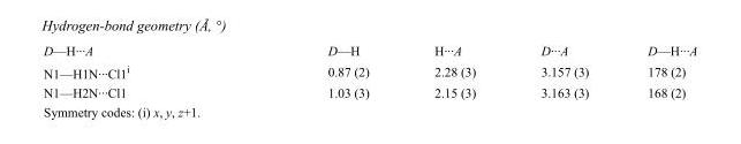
<table><tbody><tr><td>D—H···A</td><td>D—H</td><td>H···A</td><td>D···A</td><td>D—H···A</td></tr><tr><td>N1—H1N···Cl1<sup>i</sup></td><td>0.87 (2)</td><td>2.28 (3)</td><td>3.157 (3)</td><td>178 (2)</td></tr><tr><td>N1—H2N···Cl1</td><td>1.03 (3)</td><td>2.15 (3)</td><td>3.163 (3)</td><td>168 (2)</td></tr></tbody></table>